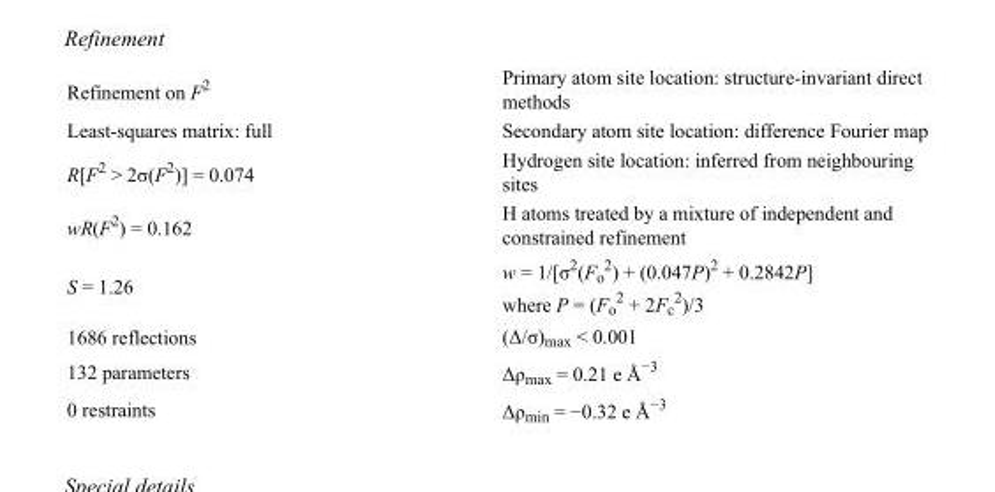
<table><tbody><tr><td>Refinement on F<sup>2</sup></td><td>Primary atom site location: structure-invariant direct methods</td></tr><tr><td>Least-squares matrix: full</td><td>Secondary atom site location: difference Fourier map</td></tr><tr><td>R[F<sup>2</sup> &gt; 2σ(F<sup>2</sup>)] = 0.074</td><td>Hydrogen site location: inferred from neighbouring sites</td></tr><tr><td>wR(F<sup>2</sup>) = 0.162</td><td>H atoms treated by a mixture of independent and constrained refinement</td></tr><tr><td>S = 1.26</td><td>w = 1/[σ<sup>2</sup>(F<sub>o</sub> <sup>2</sup>) + (0.047P)<sup>2</sup> + 0.2842P] where P = (F<sub>o</sub> <sup>2</sup> + 2F<sub>c</sub> <sup>2</sup>)/3</td></tr><tr><td>1686 reflections</td><td>(Δ/σ)<sub>max</sub> &lt; 0.001</td></tr><tr><td>132 parameters</td><td>Δρ<sub>max</sub> = 0.21 e Å<sup>−3</sup></td></tr><tr><td>0 restraints</td><td>Δρ<sub>min</sub> = −0.32 e Å<sup>−3</sup></td></tr></tbody></table>